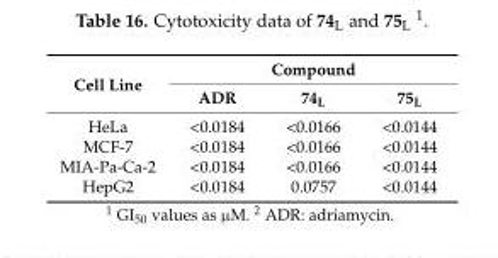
<table><thead><tr><td rowspan="2">Cell Line</td><td colspan="3">Compound</td></tr><tr><td>ADR</td><td>74<sub>L</sub></td><td>75<sub>L</sub></td></tr></thead><tbody><tr><td>HeLa</td><td>&lt;0.0184</td><td>&lt;0.0166</td><td>&lt;0.0144</td></tr><tr><td>MCF-7</td><td>&lt;0.0184</td><td>&lt;0.0166</td><td>&lt;0.0144</td></tr><tr><td>MIA-Pa-Ca-2</td><td>&lt;0.0184</td><td>&lt;0.0166</td><td>&lt;0.0144</td></tr><tr><td>HepG2</td><td>&lt;0.0184</td><td>0.0757</td><td>&lt;0.0144</td></tr></tbody></table>